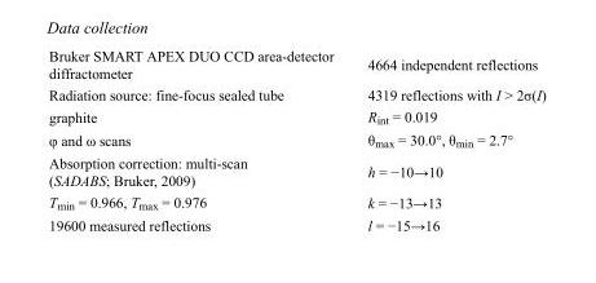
<table><tbody><tr><td>Bruker SMART APEX DUO CCD area-detector diffractometer</td><td>4664 independent reflections</td></tr><tr><td>Radiation source: fine-focus sealed tube</td><td>4319 reflections with I &gt; 2σ(I)</td></tr><tr><td>graphite</td><td>R<sub>int</sub> = 0.019</td></tr><tr><td>φ and ω scans</td><td>θ<sub>max</sub> = 30.0°, θ<sub>min</sub> = 2.7°</td></tr><tr><td>Absorption correction: multi-scan (SADABS; Bruker, 2009)</td><td>h = −10→10</td></tr><tr><td>T<sub>min</sub> = 0.966, T<sub>max</sub> = 0.976</td><td>k = −13→13</td></tr><tr><td>19600 measured reflections</td><td>l = −15→16</td></tr></tbody></table>